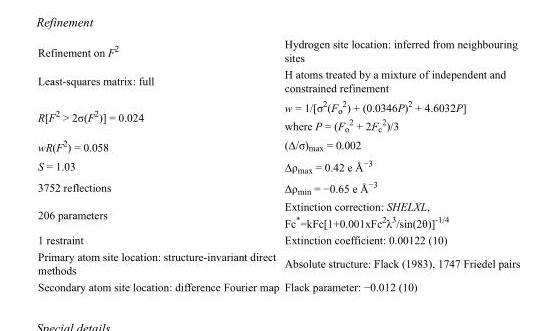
<table><tbody><tr><td>Refinement on F<sup>2</sup></td><td>Hydrogen site location: inferred from neighbouring sites</td></tr><tr><td>Least-squares matrix: full</td><td>H atoms treated by a mixture of independent and constrained refinement</td></tr><tr><td>R[F<sup>2</sup> &gt; 2σ(F<sup>2</sup>)] = 0.024</td><td>w = 1/[σ<sup>2</sup>(F<sub>o</sub> <sup>2</sup>) + (0.0346P)<sup>2</sup> + 4.6032P] where P = (F<sub>o</sub> <sup>2</sup> + 2F<sub>c</sub> <sup>2</sup>)/3</td></tr><tr><td>wR(F<sup>2</sup>) = 0.058</td><td>(Δ/σ)<sub>max</sub> = 0.002</td></tr><tr><td>S = 1.03</td><td>Δρ<sub>max</sub> = 0.42 e Å<sup>−3</sup></td></tr><tr><td>3752 reflections</td><td>Δρ<sub>min</sub> = −0.65 e Å<sup>−3</sup></td></tr><tr><td>206 parameters</td><td>Extinction correction: SHELXL, Fc*=kFc[1+0.001xFc<sup>2</sup>λ<sup>3</sup>/sin(2θ)]<sup>-1/4</sup></td></tr><tr><td>1 restraint</td><td>Extinction coefficient: 0.00122 (10)</td></tr><tr><td>Primary atom site location: structure-invariant direct methods</td><td>Absolute structure: Flack (1983), 1747 Friedel pairs</td></tr><tr><td>Secondary atom site location: difference Fourier map</td><td>Flack parameter: −0.012 (10)</td></tr></tbody></table>